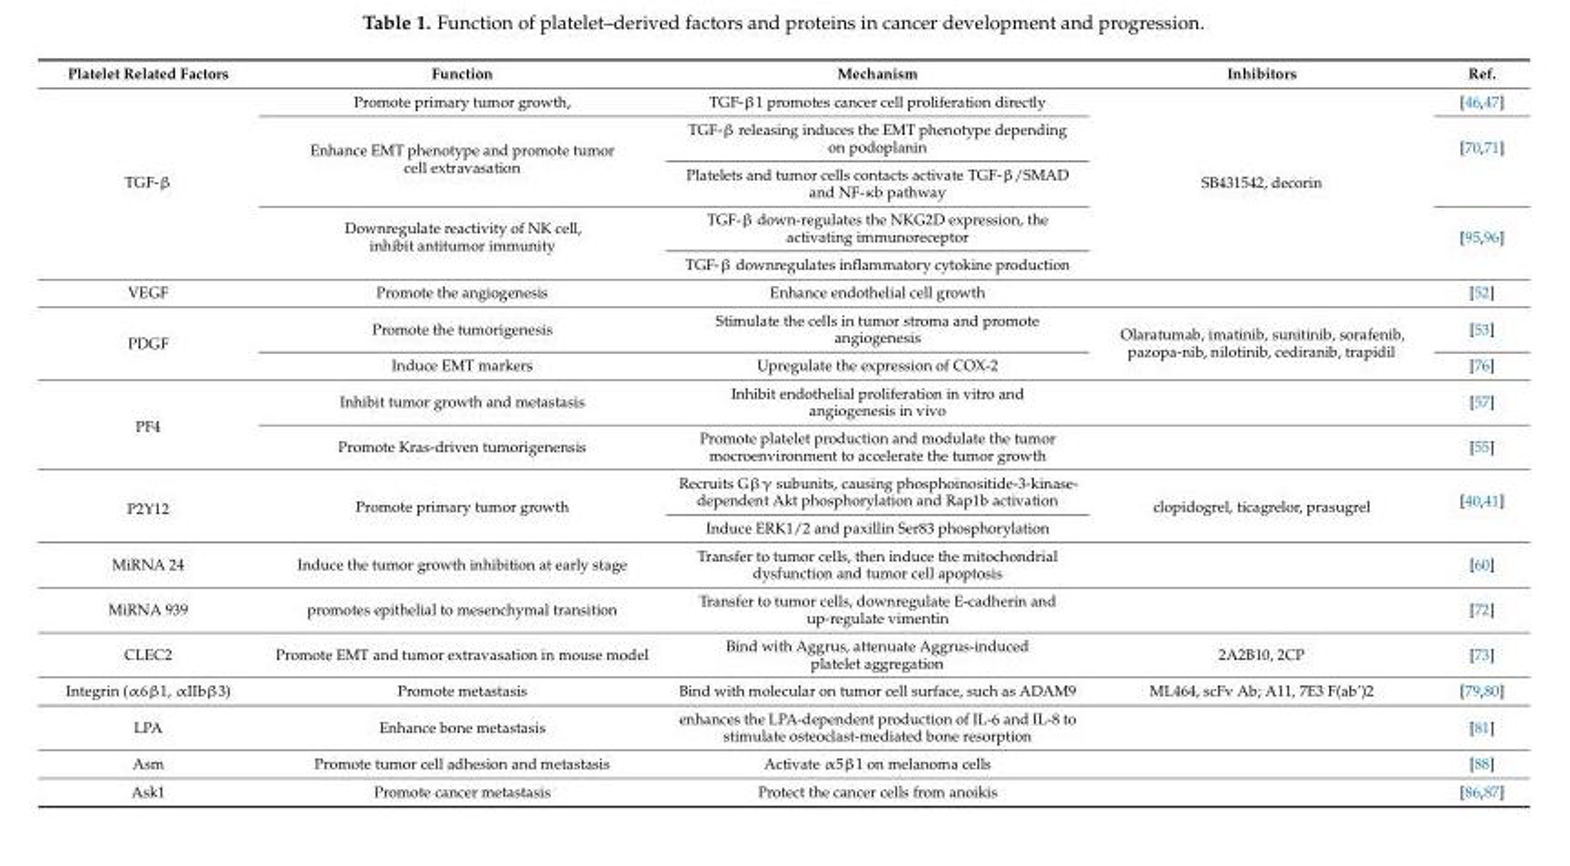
<table><thead><tr><td>Platelet Related Factors</td><td>Function</td><td>Mechanism</td><td>Inhibitors</td><td>Ref.</td></tr></thead><tbody><tr><td rowspan="5">TGF-β</td><td>Promote primary tumor growth,</td><td>TGF-β1 promotes cancer cell proliferation directly</td><td rowspan="5">SB431542, decorin</td><td>[46,47]</td></tr><tr><td rowspan="2">Enhance EMT phenotype and promote tumor cell extravasation</td><td>TGF-β releasing induces the EMT phenotype depending on podoplanin</td><td rowspan="2">[70,71]</td></tr><tr><td>Platelets and tumor cells contacts activate TGF-β/SMAD and NF-κb pathway</td></tr><tr><td rowspan="2">Downregulate reactivity of NK cell, inhibit antitumor immunity</td><td>TGF-β down-regulates the NKG2D expression, the activating immunoreceptor</td><td rowspan="2">[95,96]</td></tr><tr><td>TGF-β downregulates inflammatory cytokine production</td></tr><tr><td>VEGF</td><td>Promote the angiogenesis</td><td>Enhance endothelial cell growth</td><td></td><td>[52]</td></tr><tr><td rowspan="2">PDGF</td><td>Promote the tumorigenesis</td><td>Stimulate the cells in tumor stroma and promote angiogenesis</td><td rowspan="2">Olaratumab, imatinib, sunitinib, sorafenib, pazopa-nib, nilotinib, cediranib, trapidil</td><td>[53]</td></tr><tr><td>Induce EMT markers</td><td>Upregulate the expression of COX-2</td><td>[76]</td></tr><tr><td rowspan="2">PF4</td><td>Inhibit tumor growth and metastasis</td><td>Inhibit endothelial proliferation in vitro and angiogenesis in vivo</td><td></td><td>[57]</td></tr><tr><td>Promote Kras-driven tumorigenensis</td><td>Promote platelet production and modulate the tumor mocroenvironment to accelerate the tumor growth</td><td></td><td>[55]</td></tr><tr><td rowspan="2">P2Y12</td><td rowspan="2">Promote primary tumor growth</td><td>Recruits Gβγ subunits, causing phosphoinositide-3-kinase- dependent Akt phosphorylation and Rap1b activation</td><td rowspan="2">clopidogrel, ticagrelor, prasugrel</td><td rowspan="2">[40,41]</td></tr><tr><td>Induce ERK1/2 and paxillin Ser83 phosphorylation</td></tr><tr><td>MiRNA 24</td><td>Induce the tumor growth inhibition at early stage</td><td>Transfer to tumor cells, then induce the mitochondrial dysfunction and tumor cell apoptosis</td><td></td><td>[60]</td></tr><tr><td>MiRNA 939</td><td>promotes epithelial to mesenchymal transition</td><td>Transfer to tumor cells, downregulate E-cadherin and up-regulate vimentin</td><td></td><td>[72]</td></tr><tr><td>CLEC2</td><td>Promote EMT and tumor extravasation in mouse model</td><td>Bind with Aggrus, attenuate Aggrus-induced platelet aggregation</td><td>2A2B10, 2CP</td><td>[73]</td></tr><tr><td>Integrin (α6β1, αIIbβ3)</td><td>Promote metastasis</td><td>Bind with molecular on tumor cell surface, such as ADAM9</td><td>ML464, scFv Ab; A11, 7E3 F(ab’)2</td><td>[79,80]</td></tr><tr><td>LPA</td><td>Enhance bone metastasis</td><td>enhances the LPA-dependent production of IL-6 and IL-8 to stimulate osteoclast-mediated bone resorption</td><td></td><td>[81]</td></tr><tr><td>Asm</td><td>Promote tumor cell adhesion and metastasis</td><td>Activate α5β1 on melanoma cells</td><td></td><td>[88]</td></tr><tr><td>Ask1</td><td>Promote cancer metastasis</td><td>Protect the cancer cells from anoikis</td><td></td><td>[86,87]</td></tr></tbody></table>